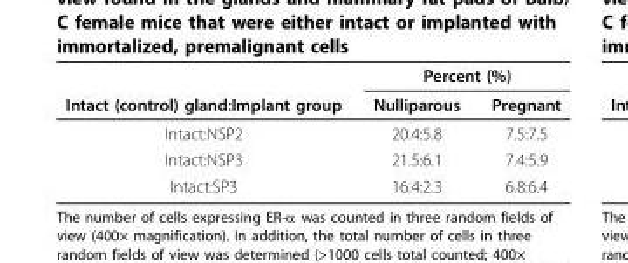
<table><thead><tr><td rowspan="2">Intact (control) gland:Implant group</td><td colspan="2">Percent (%)</td></tr><tr><td>Nulliparous</td><td>Pregnant</td></tr></thead><tbody><tr><td>Intact:NSP2</td><td>20.4:5.8</td><td>7.5:7.5</td></tr><tr><td>Intact:NSP3</td><td>21.5:6.1</td><td>7.4:5.9</td></tr><tr><td>Intact:SP3</td><td>16.4:2.3</td><td>6.8:6.4</td></tr></tbody></table>